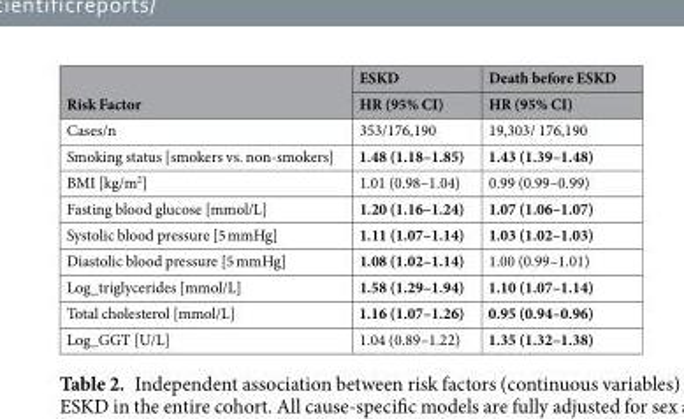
<table><thead><tr><td rowspan="2">Risk Factor</td><td rowspan="2">ESKD HR (95% CI)</td><td rowspan="2">Death before ESKD HR (95% CI)</td></tr><tr></tr></thead><tbody><tr><td>Cases/n</td><td>353/176,190</td><td>19,303/ 176,190</td></tr><tr><td>Smoking status [smokers vs. non-smokers]</td><td>1.48 (1.18–1.85)</td><td>1.43 (1.39–1.48)</td></tr><tr><td>BMI [kg/m<sup>2</sup>]</td><td>1.01 (0.98–1.04)</td><td>0.99 (0.99–0.99)</td></tr><tr><td>Fasting blood glucose [mmol/L]</td><td>1.20 (1.16–1.24)</td><td>1.07 (1.06–1.07)</td></tr><tr><td>Systolic blood pressure [5 mmHg]</td><td>1.11 (1.07–1.14)</td><td>1.03 (1.02–1.03)</td></tr><tr><td>Diastolic blood pressure [5 mmHg]</td><td>1.08 (1.02–1.14)</td><td>1.00 (0.99–1.01)</td></tr><tr><td>Log_triglycerides [mmol/L]</td><td>1.58 (1.29–1.94)</td><td>1.10 (1.07–1.14)</td></tr><tr><td>Total cholesterol [mmol/L]</td><td>1.16 (1.07–1.26)</td><td>0.95 (0.94–0.96)</td></tr><tr><td>Log_GGT [U/L]</td><td>1.04 (0.89–1.22)</td><td>1.35 (1.32–1.38)</td></tr></tbody></table>